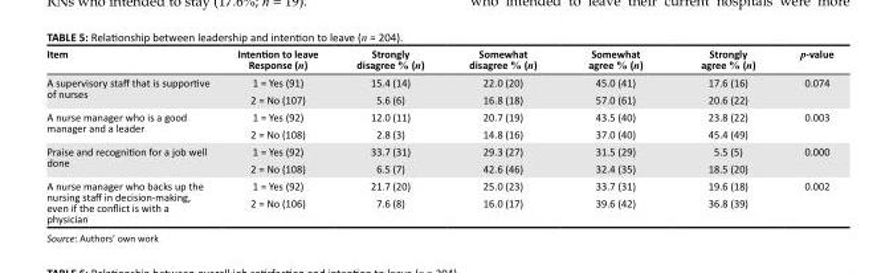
<table><thead><tr><td>Item</td><td>Intention to leave Response (n)</td><td>Strongly disagree % (n)</td><td>Somewhat disagree % (n)</td><td>Somewhat agree % (n)</td><td>Strongly agree % (n)</td><td>p-value</td></tr></thead><tbody><tr><td rowspan="2">A supervisory staff that is supportive of nurses</td><td>1 = Yes (91)</td><td>15.4 (14)</td><td>22.0 (20)</td><td>45.0 (41)</td><td>17.6 (16)</td><td>0.074</td></tr><tr><td>2 = No (107)</td><td>5.6 (6)</td><td>16.8 (18)</td><td>57.0 (61)</td><td>20.6 (22)</td><td></td></tr><tr><td rowspan="2">A nurse manager who is a good manager and a leader</td><td>1 = Yes (92)</td><td>12.0 (11)</td><td>20.7 (19)</td><td>43.5 (40)</td><td>23.8 (22)</td><td>0.003</td></tr><tr><td>2 = No (108)</td><td>2.8 (3)</td><td>14.8 (16)</td><td>37.0 (40)</td><td>45.4 (49)</td><td></td></tr><tr><td rowspan="2">Praise and recognition for a job well done</td><td>1 = Yes (92)</td><td>33.7 (31)</td><td>29.3 (27)</td><td>31.5 (29)</td><td>5.5 (5)</td><td>0.000</td></tr><tr><td>2 = No (108)</td><td>6.5 (7)</td><td>42.6 (46)</td><td>32.4 (35)</td><td>18.5 (20)</td><td></td></tr><tr><td rowspan="2">A nurse manager who backs up the nursing staff in decision-making, even if the conflict is with a physician</td><td>1 = Yes (92)</td><td>21.7 (20)</td><td>25.0 (23)</td><td>33.7 (31)</td><td>19.6 (18)</td><td>0.002</td></tr><tr><td>2 = No (106)</td><td>7.6 (8)</td><td>16.0 (17)</td><td>39.6 (42)</td><td>36.8 (39)</td><td></td></tr></tbody></table>